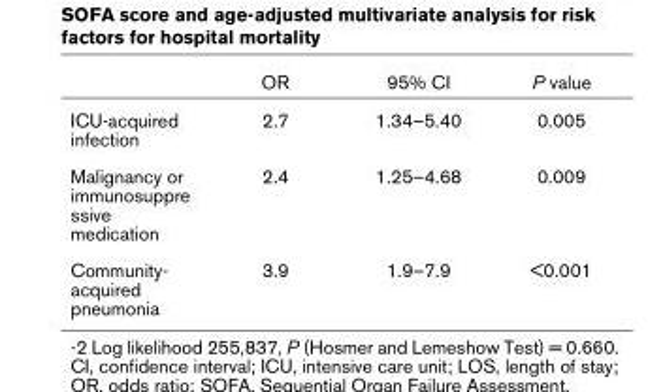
<table><thead><tr><td></td><td>OR</td><td>95% CI</td><td>P value</td></tr></thead><tbody><tr><td>ICU-acquired infection</td><td>2.7</td><td>1.34–5.40</td><td>0.005</td></tr><tr><td>Malignancy or immunosuppre ssive medication</td><td>2.4</td><td>1.25–4.68</td><td>0.009</td></tr><tr><td>Community- acquired pneumonia</td><td>3.9</td><td>1.9–7.9</td><td>&lt;0.001</td></tr></tbody></table>